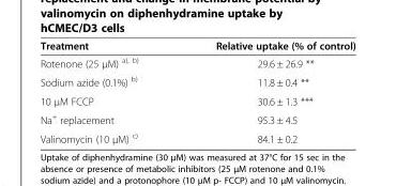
<table><thead><tr><td>Treatment</td><td>Relative uptake (% of control)</td></tr></thead><tbody><tr><td>Rotenone (25 μM) <sup>a), b)</sup></td><td>29.6 ± 26.9 **</td></tr><tr><td>Sodium azide (0.1%) <sup>b)</sup></td><td>11.8 ± 0.4 **</td></tr><tr><td>10 μM FCCP</td><td>30.6 ± 1.3 ***</td></tr><tr><td>Na<sup>+</sup> replacement</td><td>95.3 ± 4.5</td></tr><tr><td>Valinomycin (10 μM) <sup>c)</sup></td><td>84.1 ± 0.2</td></tr></tbody></table>